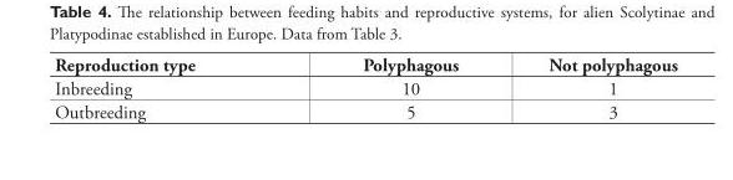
<table><thead><tr><td>Reproduction type</td><td>Polyphagous</td><td>Not polyphagous</td></tr></thead><tbody><tr><td>Inbreeding</td><td>10</td><td>1</td></tr><tr><td>Outbreeding</td><td>5</td><td>3</td></tr></tbody></table>